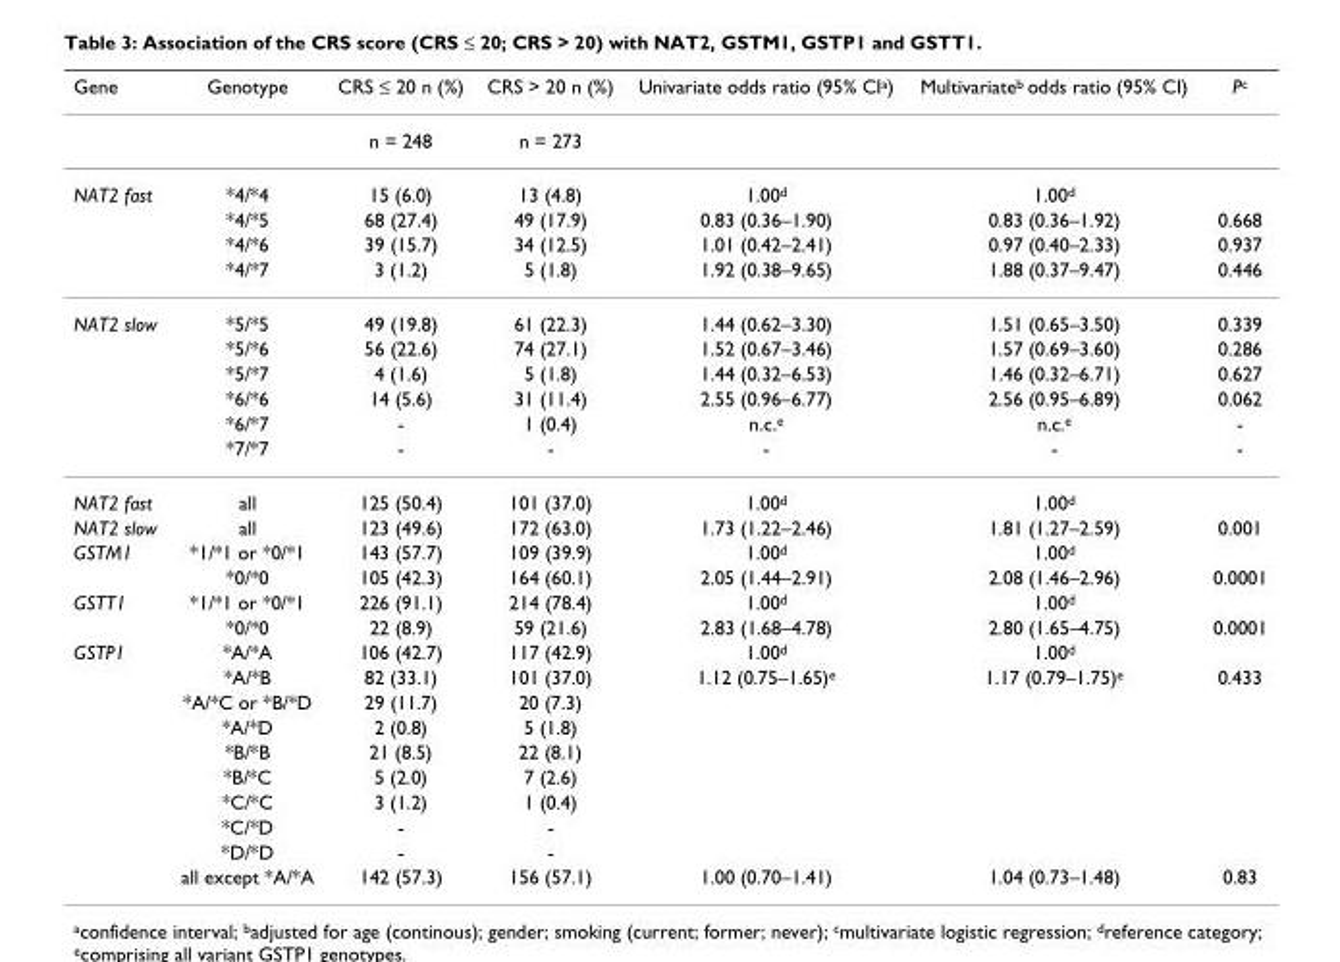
<table><thead><tr><td>Gene</td><td>Genotype</td><td>CRS ≤ 20 n (%)</td><td>CRS &gt; 20 n (%)</td><td>Univariate odds ratio (95% CI<sup>a</sup>)</td><td>Multivariate<sup>b</sup> odds ratio (95% CI)</td><td>P<sup>c</sup></td></tr></thead><tbody><tr><td></td><td></td><td>n = 248</td><td>n = 273</td><td></td><td></td><td></td></tr><tr><td rowspan="4">NAT2 fast</td><td>*4/*4</td><td>15 (6.0)</td><td>13 (4.8)</td><td>1.00<sup>d</sup></td><td>1.00<sup>d</sup></td><td></td></tr><tr><td>*4/*5</td><td>68 (27.4)</td><td>49 (17.9)</td><td>0.83 (0.36–1.90)</td><td>0.83 (0.36–1.92)</td><td>0.668</td></tr><tr><td>*4/*6</td><td>39 (15.7)</td><td>34 (12.5)</td><td>1.01 (0.42–2.41)</td><td>0.97 (0.40–2.33)</td><td>0.937</td></tr><tr><td>*4/*7</td><td>3 (1.2)</td><td>5 (1.8)</td><td>1.92 (0.38–9.65)</td><td>1.88 (0.37–9.47)</td><td>0.446</td></tr><tr><td rowspan="6">NAT2 slow</td><td>*5/*5</td><td>49 (19.8)</td><td>61 (22.3)</td><td>1.44 (0.62–3.30)</td><td>1.51 (0.65–3.50)</td><td>0.339</td></tr><tr><td>*5/*6</td><td>56 (22.6)</td><td>74 (27.1)</td><td>1.52 (0.67–3.46)</td><td>1.57 (0.69–3.60)</td><td>0.286</td></tr><tr><td>*5/*7</td><td>4 (1.6)</td><td>5 (1.8)</td><td>1.44 (0.32–6.53)</td><td>1.46 (0.32–6.71)</td><td>0.627</td></tr><tr><td>*6/*6</td><td>14 (5.6)</td><td>31 (11.4)</td><td>2.55 (0.96–6.77)</td><td>2.56 (0.95–6.89)</td><td>0.062</td></tr><tr><td>*6/*7</td><td>-</td><td>1 (0.4)</td><td>n.c.<sup>e</sup></td><td>n.c.<sup>e</sup></td><td>-</td></tr><tr><td>*7/*7</td><td>-</td><td>-</td><td>-</td><td>-</td><td>-</td></tr><tr><td>NAT2 fast</td><td>all</td><td>125 (50.4)</td><td>101 (37.0)</td><td>1.00<sup>d</sup></td><td>1.00<sup>d</sup></td><td></td></tr><tr><td>NAT2 slow</td><td>all</td><td>123 (49.6)</td><td>172 (63.0)</td><td>1.73 (1.22–2.46)</td><td>1.81 (1.27–2.59)</td><td>0.001</td></tr><tr><td rowspan="2">GSTM1</td><td>*1/*1 or *0/*1</td><td>143 (57.7)</td><td>109 (39.9)</td><td>1.00<sup>d</sup></td><td>1.00<sup>d</sup></td><td></td></tr><tr><td>*0/*0</td><td>105 (42.3)</td><td>164 (60.1)</td><td>2.05 (1.44–2.91)</td><td>2.08 (1.46–2.96)</td><td>0.0001</td></tr><tr><td rowspan="2">GSTT1</td><td>*1/*1 or *0/*1</td><td>226 (91.1)</td><td>214 (78.4)</td><td>1.00<sup>d</sup></td><td>1.00<sup>d</sup></td><td></td></tr><tr><td>*0/*0</td><td>22 (8.9)</td><td>59 (21.6)</td><td>2.83 (1.68–4.78)</td><td>2.80 (1.65–4.75)</td><td>0.0001</td></tr><tr><td rowspan="10">GSTP1</td><td>*A/*A</td><td>106 (42.7)</td><td>117 (42.9)</td><td>1.00<sup>d</sup></td><td>1.00<sup>d</sup></td><td></td></tr><tr><td>*A/*B</td><td>82 (33.1)</td><td>101 (37.0)</td><td>1.12 (0.75–1.65)<sup>e</sup></td><td>1.17 (0.79–1.75)<sup>e</sup></td><td>0.433</td></tr><tr><td>*A/*C or *B/*D</td><td>29 (11.7)</td><td>20 (7.3)</td><td></td><td></td><td></td></tr><tr><td>*A/*D</td><td>2 (0.8)</td><td>5 (1.8)</td><td></td><td></td><td></td></tr><tr><td>*B/*B</td><td>21 (8.5)</td><td>22 (8.1)</td><td></td><td></td><td></td></tr><tr><td>*B/*C</td><td>5 (2.0)</td><td>7 (2.6)</td><td></td><td></td><td></td></tr><tr><td>*C/*C</td><td>3 (1.2)</td><td>1 (0.4)</td><td></td><td></td><td></td></tr><tr><td>*C/*D</td><td>-</td><td>-</td><td></td><td></td><td></td></tr><tr><td>*D/*D</td><td>-</td><td>-</td><td></td><td></td><td></td></tr><tr><td>all except *A/*A</td><td>142 (57.3)</td><td>156 (57.1)</td><td>1.00 (0.70–1.41)</td><td>1.04 (0.73–1.48)</td><td>0.83</td></tr></tbody></table>